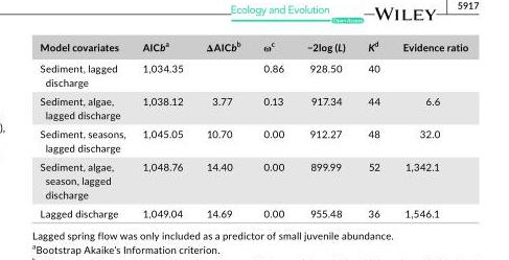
<table><thead><tr><td>Model covariates</td><td>AICba</td><td>ΔAICbb</td><td>ω<sup>c</sup></td><td>−2log (L)</td><td>Kd</td><td>Evidence ratio</td></tr></thead><tbody><tr><td>Sediment, lagged discharge</td><td>1,034.35</td><td></td><td>0.86</td><td>928.50</td><td>40</td><td></td></tr><tr><td>Sediment, algae, lagged discharge</td><td>1,038.12</td><td>3.77</td><td>0.13</td><td>917.34</td><td>44</td><td>6.6</td></tr><tr><td>Sediment, seasons, lagged discharge</td><td>1,045.05</td><td>10.70</td><td>0.00</td><td>912.27</td><td>48</td><td>32.0</td></tr><tr><td>Sediment, algae, season, lagged discharge</td><td>1,048.76</td><td>14.40</td><td>0.00</td><td>899.99</td><td>52</td><td>1,342.1</td></tr><tr><td>Lagged discharge</td><td>1,049.04</td><td>14.69</td><td>0.00</td><td>955.48</td><td>36</td><td>1,546.1</td></tr></tbody></table>